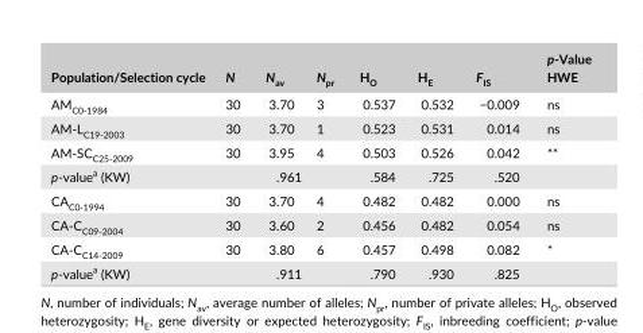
<table><thead><tr><td>Population/Selection cycle</td><td>N</td><td>N<sub>av</sub></td><td>N<sub>pr</sub></td><td>H<sub>O</sub></td><td>H<sub>E</sub></td><td>F<sub>IS</sub></td><td>p- Value HWE</td></tr></thead><tbody><tr><td>AM<sub>C0-1984</sub></td><td>30</td><td>3.70</td><td>3</td><td>0.537</td><td>0.532</td><td>−0.009</td><td>ns</td></tr><tr><td>AM- L<sub>C19-2003</sub></td><td>30</td><td>3.70</td><td>1</td><td>0.523</td><td>0.531</td><td>0.014</td><td>ns</td></tr><tr><td>AM- SC<sub>C25-2009</sub></td><td>30</td><td>3.95</td><td>4</td><td>0.503</td><td>0.526</td><td>0.042</td><td>**</td></tr><tr><td>p- value<sup>a</sup> (KW)</td><td></td><td>.961</td><td></td><td>.584</td><td>.725</td><td>.520</td><td></td></tr><tr><td>CA<sub>C0-1994</sub></td><td>30</td><td>3.70</td><td>4</td><td>0.482</td><td>0.482</td><td>0.000</td><td>ns</td></tr><tr><td>CA- C<sub>C09-2004</sub></td><td>30</td><td>3.60</td><td>2</td><td>0.456</td><td>0.482</td><td>0.054</td><td>ns</td></tr><tr><td>CA- C<sub>C14-2009</sub></td><td>30</td><td>3.80</td><td>6</td><td>0.457</td><td>0.498</td><td>0.082</td><td>*</td></tr><tr><td>p- value<sup>a</sup> (KW)</td><td></td><td>.911</td><td></td><td>.790</td><td>.930</td><td>.825</td><td></td></tr></tbody></table>